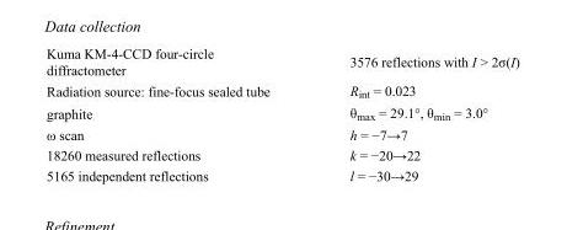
<table><tbody><tr><td>Kuma KM-4-CCD four-circle diffractometer</td><td>3576 reflections with I &gt; 2σ(I)</td></tr><tr><td>Radiation source: fine-focus sealed tube</td><td>R<sub>int</sub> = 0.023</td></tr><tr><td>graphite</td><td>θ<sub>max</sub> = 29.1°, θ<sub>min</sub> = 3.0°</td></tr><tr><td>ω scan</td><td>h = −7→7</td></tr><tr><td>18260 measured reflections</td><td>k = −20→22</td></tr><tr><td>5165 independent reflections</td><td>l = −30→29</td></tr></tbody></table>